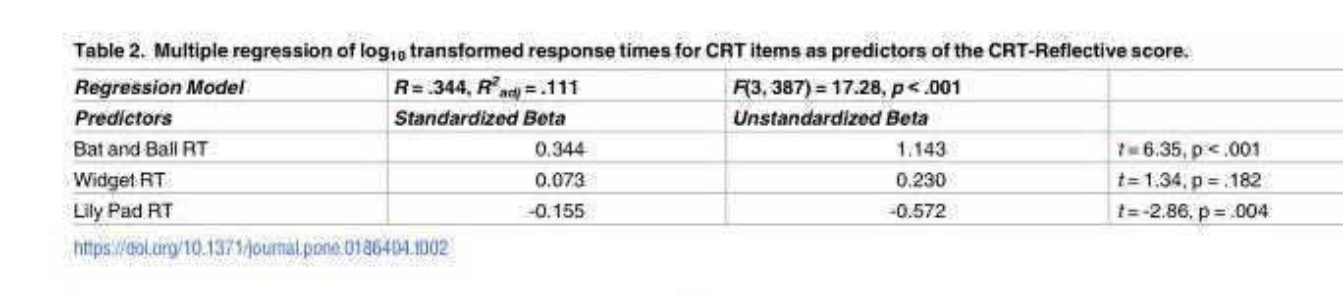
<table><thead><tr><td rowspan="2">Regression Model Predictors</td><td rowspan="2">R = .344, R<sup>2</sup> <sub>adj</sub> = .111 Standardized Beta</td><td rowspan="2">F(3, 387) = 17.28, p &lt; .001 Unstandardized Beta</td><td rowspan="2"></td></tr><tr></tr></thead><tbody><tr><td>Bat and Ball RT</td><td>0.344</td><td>1.143</td><td>t = 6.35, p &lt; .001</td></tr><tr><td>Widget RT</td><td>0.073</td><td>0.230</td><td>t = 1.34, p = .182</td></tr><tr><td>Lily Pad RT</td><td>-0.155</td><td>-0.572</td><td>t = -2.86, p = .004</td></tr></tbody></table>